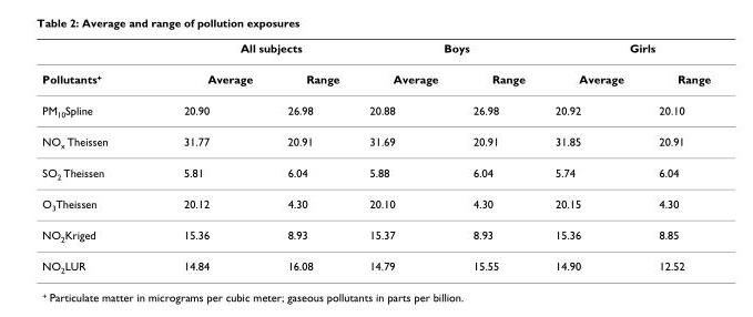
<table><thead><tr><td rowspan="2">Pollutants<sup>+</sup></td><td colspan="2">All subjects</td><td colspan="2">Boys</td><td colspan="2">Girls</td></tr><tr><td>Average</td><td>Range</td><td>Average</td><td>Range</td><td>Average</td><td>Range</td></tr></thead><tbody><tr><td>PM<sub>10</sub>Spline</td><td>20.90</td><td>26.98</td><td>20.88</td><td>26.98</td><td>20.92</td><td>20.10</td></tr><tr><td>NO<sub>x</sub> Theissen</td><td>31.77</td><td>20.91</td><td>31.69</td><td>20.91</td><td>31.85</td><td>20.91</td></tr><tr><td>SO<sub>2</sub> Theissen</td><td>5.81</td><td>6.04</td><td>5.88</td><td>6.04</td><td>5.74</td><td>6.04</td></tr><tr><td>O<sub>3</sub>Theissen</td><td>20.12</td><td>4.30</td><td>20.10</td><td>4.30</td><td>20.15</td><td>4.30</td></tr><tr><td>NO<sub>2</sub>Kriged</td><td>15.36</td><td>8.93</td><td>15.37</td><td>8.93</td><td>15.36</td><td>8.85</td></tr><tr><td>NO<sub>2</sub>LUR</td><td>14.84</td><td>16.08</td><td>14.79</td><td>15.55</td><td>14.90</td><td>12.52</td></tr></tbody></table>